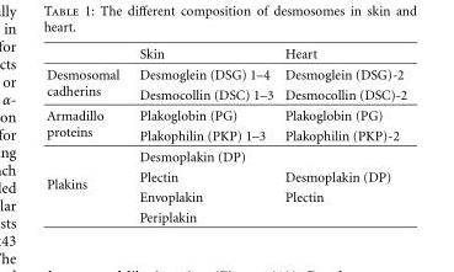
<table><thead><tr><td></td><td>Skin</td><td>Heart</td></tr></thead><tbody><tr><td rowspan="2">Desmosomal cadherins</td><td>Desmoglein (DSG) 1–4</td><td>Desmoglein (DSG)-2</td></tr><tr><td>Desmocollin (DSC) 1–3</td><td>Desmocollin (DSC)-2</td></tr><tr><td rowspan="2">Armadillo proteins</td><td>Plakoglobin (PG)</td><td>Plakoglobin (PG)</td></tr><tr><td>Plakophilin (PKP) 1–3</td><td>Plakophilin (PKP)-2</td></tr><tr><td rowspan="4">Plakins</td><td>Desmoplakin (DP)</td><td></td></tr><tr><td>Plectin</td><td>Desmoplakin (DP)</td></tr><tr><td>Envoplakin</td><td>Plectin</td></tr><tr><td>Periplakin</td><td></td></tr></tbody></table>